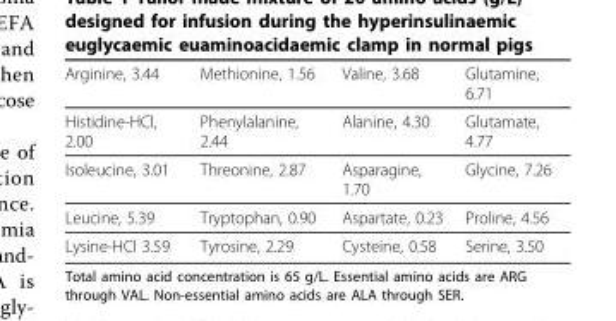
<table><thead><tr><td>Arginine, 3.44</td><td>Methionine, 1.56</td><td>Valine, 3.68</td><td>Glutamine, 6.71</td></tr></thead><tbody><tr><td>Histidine-HCl, 2.00</td><td>Phenylalanine, 2.44</td><td>Alanine, 4.30</td><td>Glutamate, 4.77</td></tr><tr><td>Isoleucine, 3.01</td><td>Threonine, 2.87</td><td>Asparagine, 1.70</td><td>Glycine, 7.26</td></tr><tr><td>Leucine, 5.39</td><td>Tryptophan, 0.90</td><td>Aspartate, 0.23</td><td>Proline, 4.56</td></tr><tr><td>Lysine-HCl 3.59</td><td>Tyrosine, 2.29</td><td>Cysteine, 0.58</td><td>Serine, 3.50</td></tr></tbody></table>